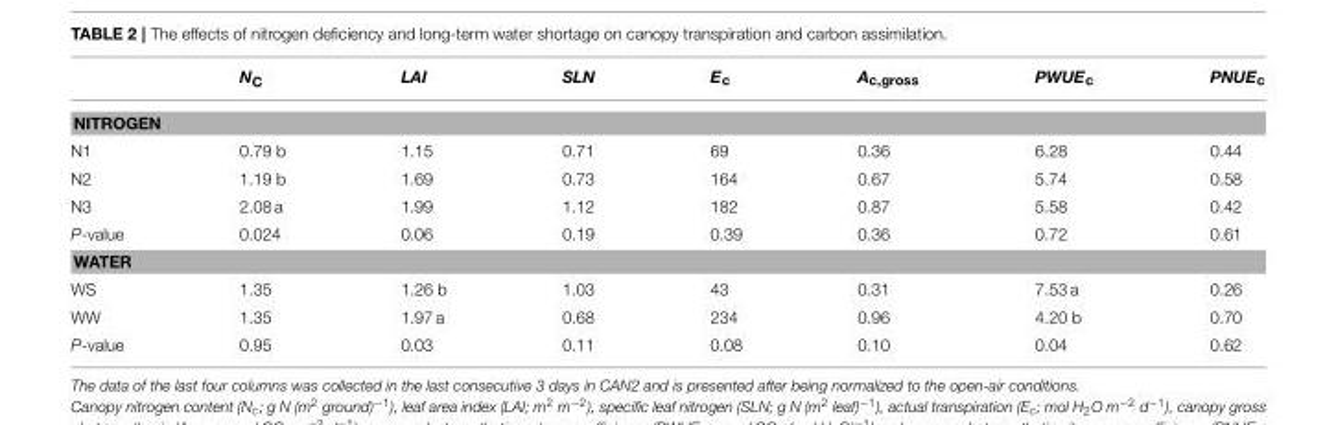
<table><thead><tr><td></td><td>N<sub>C</sub></td><td>LAI</td><td>SLN</td><td>E<sub>c</sub></td><td>A<sub>c,gross</sub></td><td>PWUE<sub>c</sub></td><td>PNUE<sub>c</sub></td></tr></thead><tbody><tr><td colspan="8">NITROGEN</td></tr><tr><td>N1</td><td>0.79 b</td><td>1.15</td><td>0.71</td><td>69</td><td>0.36</td><td>6.28</td><td>0.44</td></tr><tr><td>N2</td><td>1.19 b</td><td>1.69</td><td>0.73</td><td>164</td><td>0.67</td><td>5.74</td><td>0.58</td></tr><tr><td>N3</td><td>2.08 a</td><td>1.99</td><td>1.12</td><td>182</td><td>0.87</td><td>5.58</td><td>0.42</td></tr><tr><td>P-value</td><td>0.024</td><td>0.06</td><td>0.19</td><td>0.39</td><td>0.36</td><td>0.72</td><td>0.61</td></tr><tr><td colspan="8">WATER</td></tr><tr><td>WS</td><td>1.35</td><td>1.26 b</td><td>1.03</td><td>43</td><td>0.31</td><td>7.53 a</td><td>0.26</td></tr><tr><td>WW</td><td>1.35</td><td>1.97 a</td><td>0.68</td><td>234</td><td>0.96</td><td>4.20 b</td><td>0.70</td></tr><tr><td>P-value</td><td>0.95</td><td>0.03</td><td>0.11</td><td>0.08</td><td>0.10</td><td>0.04</td><td>0.62</td></tr></tbody></table>